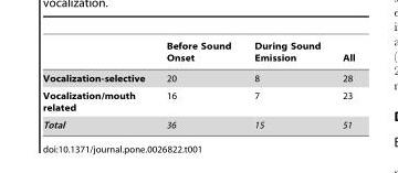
<table><thead><tr><td></td><td>Before Sound Onset</td><td>During Sound Emission</td><td>All</td></tr></thead><tbody><tr><td>Vocalization-selective</td><td>20</td><td>8</td><td>28</td></tr><tr><td>Vocalization/mouth related</td><td>16</td><td>7</td><td>23</td></tr><tr><td>Total</td><td>36</td><td>15</td><td>51</td></tr></tbody></table>